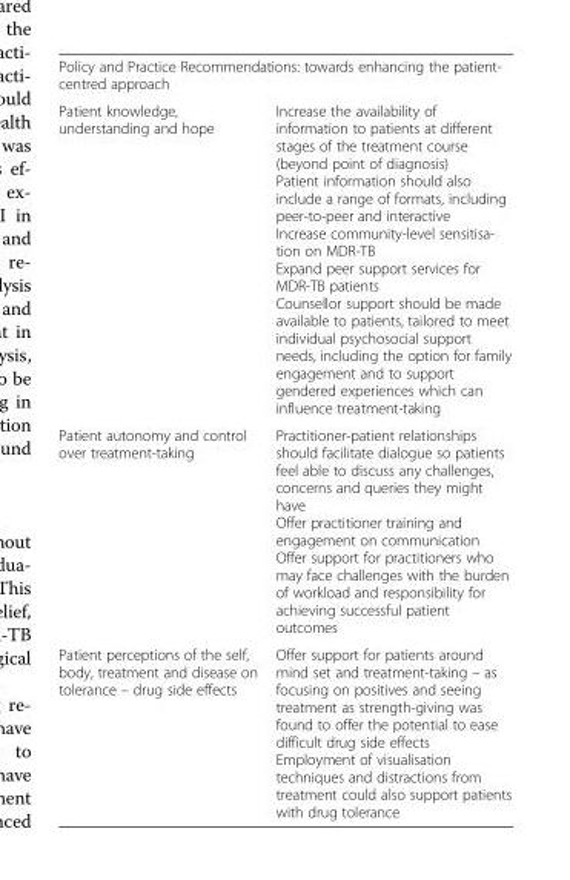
<table><tbody><tr><td colspan="2">Policy and Practice Recommendations: towards enhancing the patient- centred approach</td></tr><tr><td>Patient knowledge, understanding and hope</td><td>Increase the availability of information to patients at different stages of the treatment course (beyond point of diagnosis) Patient information should also include a range of formats, including peer-to-peer and interactive Increase community-level sensitisa- tion on MDR-TB Expand peer support services for MDR-TB patients Counsellor support should be made available to patients, tailored to meet individual psychosocial support needs, including the option for family engagement and to support gendered experiences which can influence treatment-taking</td></tr><tr><td>Patient autonomy and control over treatment-taking</td><td>Practitioner-patient relationships should facilitate dialogue so patients feel able to discuss any challenges, concerns and queries they might have Offer practitioner training and engagement on communication Offer support for practitioners who may face challenges with the burden of workload and responsibility for achieving successful patient outcomes</td></tr><tr><td>Patient perceptions of the self, body, treatment and disease on tolerance – drug side effects</td><td>Offer support for patients around mind set and treatment-taking – as focusing on positives and seeing treatment as strength-giving was found to offer the potential to ease difficult drug side effects Employment of visualisation techniques and distractions from treatment could also support patients with drug tolerance</td></tr></tbody></table>